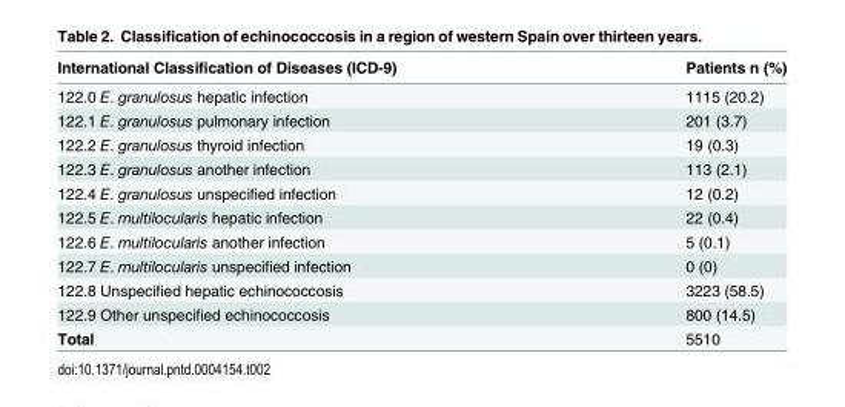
<table><thead><tr><td>International Classification of Diseases (ICD-9)</td><td>Patients n (%)</td></tr></thead><tbody><tr><td>122.0 E. granulosus hepatic infection</td><td>1115 (20.2)</td></tr><tr><td>122.1 E. granulosus pulmonary infection</td><td>201 (3.7)</td></tr><tr><td>122.2 E. granulosus thyroid infection</td><td>19 (0.3)</td></tr><tr><td>122.3 E. granulosus another infection</td><td>113 (2.1)</td></tr><tr><td>122.4 E. granulosus unspecified infection</td><td>12 (0.2)</td></tr><tr><td>122.5 E. multilocularis hepatic infection</td><td>22 (0.4)</td></tr><tr><td>122.6 E. multilocularis another infection</td><td>5 (0.1)</td></tr><tr><td>122.7 E. multilocularis unspecified infection</td><td>0 (0)</td></tr><tr><td>122.8 Unspecified hepatic echinococcosis</td><td>3223 (58.5)</td></tr><tr><td>122.9 Other unspecified echinococcosis</td><td>800 (14.5)</td></tr><tr><td>Total</td><td>5510</td></tr></tbody></table>